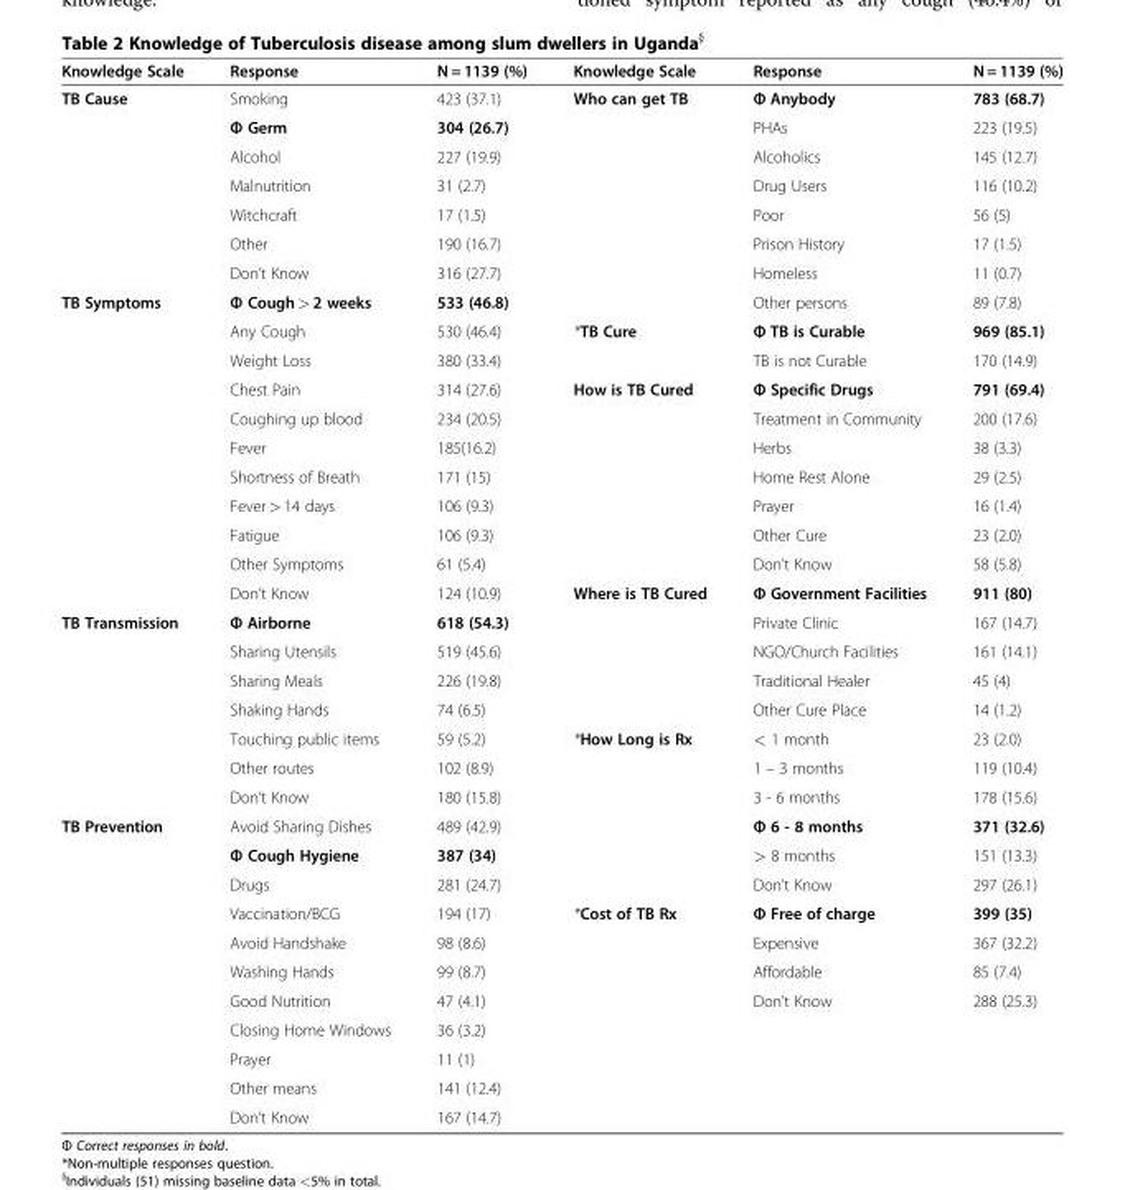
<table><thead><tr><td>Knowledge Scale</td><td>Response</td><td>N = 1139 (%)</td><td>Knowledge Scale</td><td>Response</td><td>N = 1139 (%)</td></tr></thead><tbody><tr><td rowspan="7">TB Cause</td><td>Smoking</td><td>423 (37.1)</td><td>Who can get TB</td><td>Φ Anybody</td><td>783 (68.7)</td></tr><tr><td>Φ Germ</td><td>304 (26.7)</td><td></td><td>PHAs</td><td>223 (19.5)</td></tr><tr><td>Alcohol</td><td>227 (19.9)</td><td></td><td>Alcoholics</td><td>145 (12.7)</td></tr><tr><td>Malnutrition</td><td>31 (2.7)</td><td></td><td>Drug Users</td><td>116 (10.2)</td></tr><tr><td>Witchcraft</td><td>17 (1.5)</td><td></td><td>Poor</td><td>56 (5)</td></tr><tr><td>Other</td><td>190 (16.7)</td><td></td><td>Prison History</td><td>17 (1.5)</td></tr><tr><td>Don’t Know</td><td>316 (27.7)</td><td></td><td>Homeless</td><td>11 (0.7)</td></tr><tr><td rowspan="11">TB Symptoms</td><td>Φ Cough &gt; 2 weeks</td><td>533 (46.8)</td><td></td><td>Other persons</td><td>89 (7.8)</td></tr><tr><td>Any Cough</td><td>530 (46.4)</td><td>*TB Cure</td><td>Φ TB is Curable</td><td>969 (85.1)</td></tr><tr><td>Weight Loss</td><td>380 (33.4)</td><td></td><td>TB is not Curable</td><td>170 (14.9)</td></tr><tr><td>Chest Pain</td><td>314 (27.6)</td><td>How is TB Cured</td><td>Φ Specific Drugs</td><td>791 (69.4)</td></tr><tr><td>Coughing up blood</td><td>234 (20.5)</td><td></td><td>Treatment in Community</td><td>200 (17.6)</td></tr><tr><td>Fever</td><td>185(16.2)</td><td></td><td>Herbs</td><td>38 (3.3)</td></tr><tr><td>Shortness of Breath</td><td>171 (15)</td><td></td><td>Home Rest Alone</td><td>29 (2.5)</td></tr><tr><td>Fever &gt; 14 days</td><td>106 (9.3)</td><td></td><td>Prayer</td><td>16 (1.4)</td></tr><tr><td>Fatigue</td><td>106 (9.3)</td><td></td><td>Other Cure</td><td>23 (2.0)</td></tr><tr><td>Other Symptoms</td><td>61 (5.4)</td><td></td><td>Don’t Know</td><td>58 (5.8)</td></tr><tr><td>Don’t Know</td><td>124 (10.9)</td><td>Where is TB Cured</td><td>Φ Government Facilities</td><td>911 (80)</td></tr><tr><td rowspan="7">TB Transmission</td><td>Φ Airborne</td><td>618 (54.3)</td><td></td><td>Private Clinic</td><td>167 (14.7)</td></tr><tr><td>Sharing Utensils</td><td>519 (45.6)</td><td></td><td>NGO/Church Facilities</td><td>161 (14.1)</td></tr><tr><td>Sharing Meals</td><td>226 (19.8)</td><td></td><td>Traditional Healer</td><td>45 (4)</td></tr><tr><td>Shaking Hands</td><td>74 (6.5)</td><td></td><td>Other Cure Place</td><td>14 (1.2)</td></tr><tr><td>Touching public items</td><td>59 (5.2)</td><td>*How Long is Rx</td><td>&lt; 1 month</td><td>23 (2.0)</td></tr><tr><td>Other routes</td><td>102 (8.9)</td><td></td><td>1 – 3 months</td><td>119 (10.4)</td></tr><tr><td>Don’t Know</td><td>180 (15.8)</td><td></td><td>3 - 6 months</td><td>178 (15.6)</td></tr><tr><td rowspan="11">TB Prevention</td><td>Avoid Sharing Dishes</td><td>489 (42.9)</td><td></td><td>Φ 6 - 8 months</td><td>371 (32.6)</td></tr><tr><td>Φ Cough Hygiene</td><td>387 (34)</td><td></td><td>&gt; 8 months</td><td>151 (13.3)</td></tr><tr><td>Drugs</td><td>281 (24.7)</td><td></td><td>Don’t Know</td><td>297 (26.1)</td></tr><tr><td>Vaccination/BCG</td><td>194 (17)</td><td>*Cost of TB Rx</td><td>Φ Free of charge</td><td>399 (35)</td></tr><tr><td>Avoid Handshake</td><td>98 (8.6)</td><td></td><td>Expensive</td><td>367 (32.2)</td></tr><tr><td>Washing Hands</td><td>99 (8.7)</td><td></td><td>Affordable</td><td>85 (7.4)</td></tr><tr><td>Good Nutrition</td><td>47 (4.1)</td><td></td><td>Don’t Know</td><td>288 (25.3)</td></tr><tr><td>Closing Home Windows</td><td>36 (3.2)</td><td></td><td></td><td></td></tr><tr><td>Prayer</td><td>11 (1)</td><td></td><td></td><td></td></tr><tr><td>Other means</td><td>141 (12.4)</td><td></td><td></td><td></td></tr><tr><td>Don’t Know</td><td>167 (14.7)</td><td></td><td></td><td></td></tr></tbody></table>